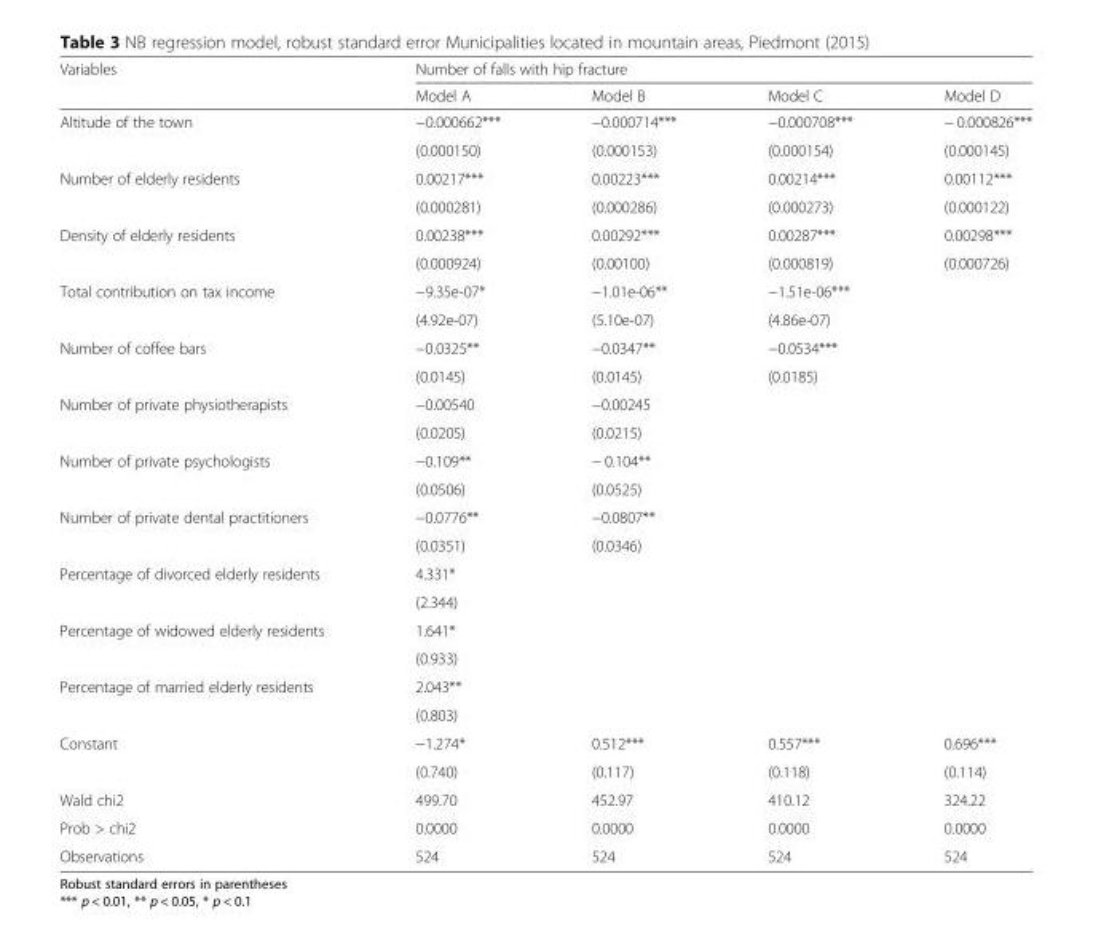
<table><thead><tr><td rowspan="2">Variables</td><td colspan="4">Number of falls with hip fracture</td></tr><tr><td>Model A</td><td>Model B</td><td>Model C</td><td>Model D</td></tr></thead><tbody><tr><td rowspan="2">Altitude of the town</td><td>−0.000662***</td><td>−0.000714***</td><td>−0.000708***</td><td>− 0.000826***</td></tr><tr><td>(0.000150)</td><td>(0.000153)</td><td>(0.000154)</td><td>(0.000145)</td></tr><tr><td rowspan="2">Number of elderly residents</td><td>0.00217***</td><td>0.00223***</td><td>0.00214***</td><td>0.00112***</td></tr><tr><td>(0.000281)</td><td>(0.000286)</td><td>(0.000273)</td><td>(0.000122)</td></tr><tr><td rowspan="2">Density of elderly residents</td><td>0.00238***</td><td>0.00292***</td><td>0.00287***</td><td>0.00298***</td></tr><tr><td>(0.000924)</td><td>(0.00100)</td><td>(0.000819)</td><td>(0.000726)</td></tr><tr><td rowspan="2">Total contribution on tax income</td><td>−9.35e-07*</td><td>−1.01e-06**</td><td>−1.51e-06***</td><td></td></tr><tr><td>(4.92e-07)</td><td>(5.10e-07)</td><td>(4.86e-07)</td><td></td></tr><tr><td rowspan="2">Number of coffee bars</td><td>−0.0325**</td><td>−0.0347**</td><td>−0.0534***</td><td></td></tr><tr><td>(0.0145)</td><td>(0.0145)</td><td>(0.0185)</td><td></td></tr><tr><td rowspan="2">Number of private physiotherapists</td><td>−0.00540</td><td>−0.00245</td><td></td><td></td></tr><tr><td>(0.0205)</td><td>(0.0215)</td><td></td><td></td></tr><tr><td rowspan="2">Number of private psychologists</td><td>−0.109**</td><td>− 0.104**</td><td></td><td></td></tr><tr><td>(0.0506)</td><td>(0.0525)</td><td></td><td></td></tr><tr><td rowspan="2">Number of private dental practitioners</td><td>−0.0776**</td><td>−0.0807**</td><td></td><td></td></tr><tr><td>(0.0351)</td><td>(0.0346)</td><td></td><td></td></tr><tr><td rowspan="2">Percentage of divorced elderly residents</td><td>4.331*</td><td></td><td></td><td></td></tr><tr><td>(2.344)</td><td></td><td></td><td></td></tr><tr><td rowspan="2">Percentage of widowed elderly residents</td><td>1.641*</td><td></td><td></td><td></td></tr><tr><td>(0.933)</td><td></td><td></td><td></td></tr><tr><td rowspan="2">Percentage of married elderly residents</td><td>2.043**</td><td></td><td></td><td></td></tr><tr><td>(0.803)</td><td></td><td></td><td></td></tr><tr><td rowspan="2">Constant</td><td>−1.274*</td><td>0.512***</td><td>0.557***</td><td>0.696***</td></tr><tr><td>(0.740)</td><td>(0.117)</td><td>(0.118)</td><td>(0.114)</td></tr><tr><td>Wald chi2</td><td>499.70</td><td>452.97</td><td>410.12</td><td>324.22</td></tr><tr><td>Prob &gt; chi2</td><td>0.0000</td><td>0.0000</td><td>0.0000</td><td>0.0000</td></tr><tr><td>Observations</td><td>524</td><td>524</td><td>524</td><td>524</td></tr></tbody></table>